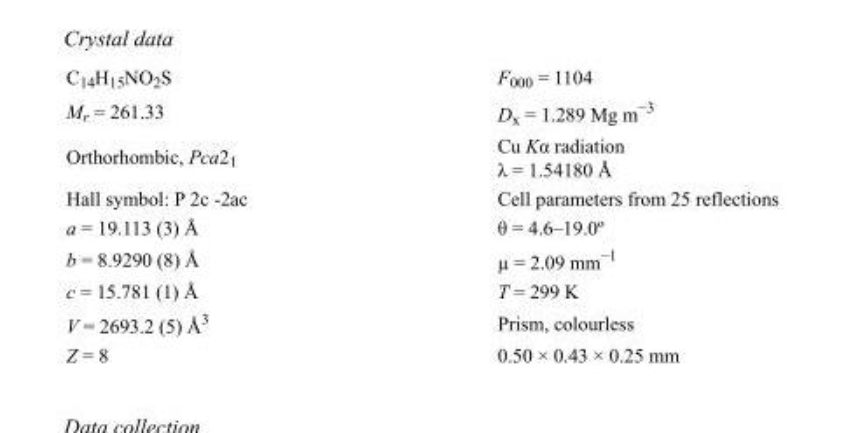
<table><tbody><tr><td>C<sub>14</sub>H<sub>15</sub>NO<sub>2</sub>S</td><td>F000 = 1104</td></tr><tr><td>M<sub>r</sub> = 261.33</td><td>D<sub>x</sub> = 1.289 Mg m<sup>−3</sup></td></tr><tr><td>Orthorhombic, Pca2<sub>1</sub></td><td>Cu Kα radiation λ = 1.54180 Å</td></tr><tr><td>Hall symbol: P 2c -2ac</td><td>Cell parameters from 25 reflections</td></tr><tr><td>a = 19.113 (3) Å</td><td>θ = 4.6–19.0º</td></tr><tr><td>b = 8.9290 (8) Å</td><td>µ = 2.09 mm<sup>−1</sup></td></tr><tr><td>c = 15.781 (1) Å</td><td>T = 299 K</td></tr><tr><td>V = 2693.2 (5) Å<sup>3</sup></td><td>Prism, colourless</td></tr><tr><td>Z = 8</td><td>0.50 × 0.43 × 0.25 mm</td></tr></tbody></table>